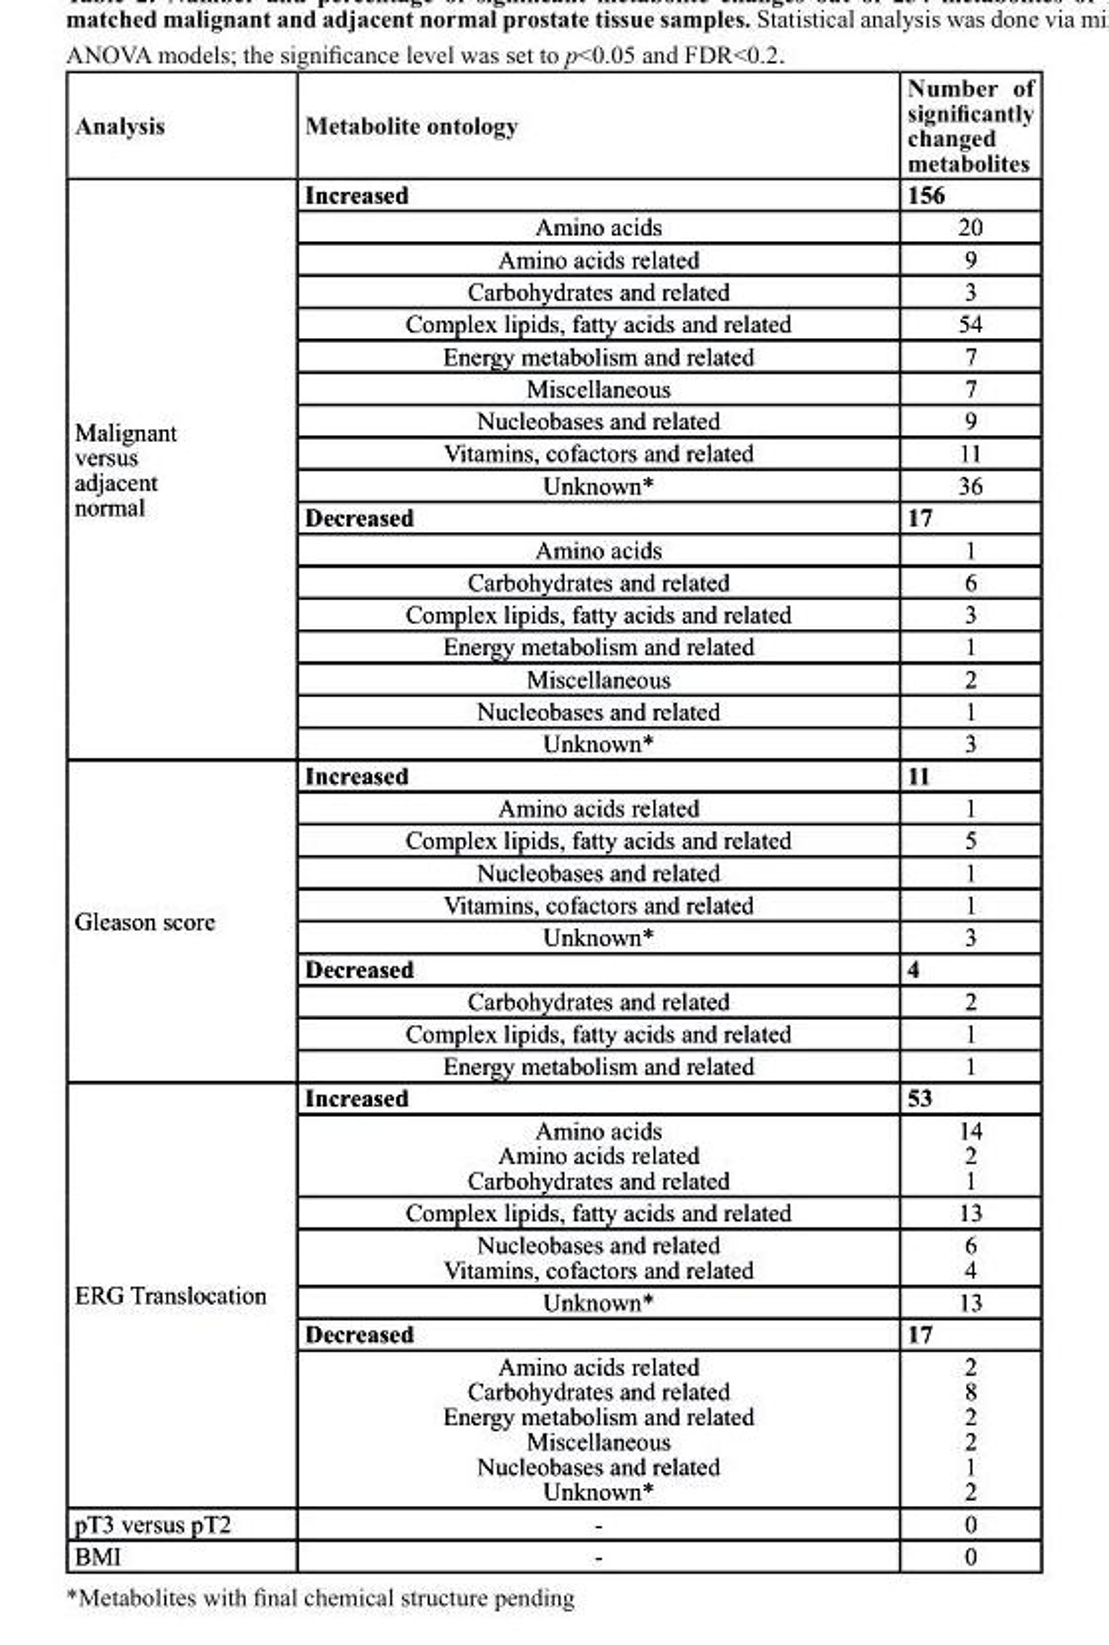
<table><thead><tr><td>Analysis</td><td>Metabolite ontology</td><td>number of significantly changed metabolites</td></tr></thead><tbody><tr><td rowspan="18">Malignant versus adjacent normal</td><td>Increased</td><td>156</td></tr><tr><td>Amino acids</td><td>20</td></tr><tr><td>Amino acids related</td><td>9</td></tr><tr><td>Carbohydrates and related</td><td>3</td></tr><tr><td>Complex lipids, fatty acids and related</td><td>54</td></tr><tr><td>Energy metabolism and related</td><td>7</td></tr><tr><td>Miscellaneous</td><td>7</td></tr><tr><td>Nucleobases and related</td><td>9</td></tr><tr><td>Vitamins, cofactors and related</td><td>11</td></tr><tr><td>Unknown*</td><td>36</td></tr><tr><td>decreased</td><td>17</td></tr><tr><td>Amino acids</td><td>1</td></tr><tr><td>Carbohydrates and related</td><td>6</td></tr><tr><td>Complex lipids, fatty acids and related</td><td>3</td></tr><tr><td>Energy metabolism and related</td><td>1</td></tr><tr><td>Miscellaneous</td><td>2</td></tr><tr><td>Nucleobases and related</td><td>1</td></tr><tr><td>Unknown*</td><td>3</td></tr><tr><td rowspan="10">Gleason score</td><td>Increased</td><td>11</td></tr><tr><td>Amino acids related</td><td>1</td></tr><tr><td>Complex lipids, fatty acids and related</td><td>5</td></tr><tr><td>Nucleobases and related</td><td>1</td></tr><tr><td>Vitamins, cofactors and related</td><td>1</td></tr><tr><td>Unknown*</td><td>3</td></tr><tr><td>decreased</td><td>4</td></tr><tr><td>Carbohydrates and related</td><td>2</td></tr><tr><td>Complex lipids, fatty acids and related</td><td>1</td></tr><tr><td>Energy metabolism and related</td><td>1</td></tr><tr><td rowspan="7">ERG Translocation</td><td>Increased</td><td>53</td></tr><tr><td>Amino acids Amino acids related Carbohydrates and related</td><td>14 2 1</td></tr><tr><td>Complex lipids, fatty acids and related</td><td>13</td></tr><tr><td>Nucleobases and related Vitamins, cofactors and related</td><td>6 4</td></tr><tr><td>Unknown*</td><td>13</td></tr><tr><td>decreased</td><td>17</td></tr><tr><td>Amino acids related Carbohydrates and related Energy metabolism and related Miscellaneous Nucleobases and related Unknown*</td><td>2 8 2 2 1 2</td></tr><tr><td>pT3 versus pT2</td><td>-</td><td>0</td></tr><tr><td>BMI</td><td>-</td><td>0</td></tr></tbody></table>